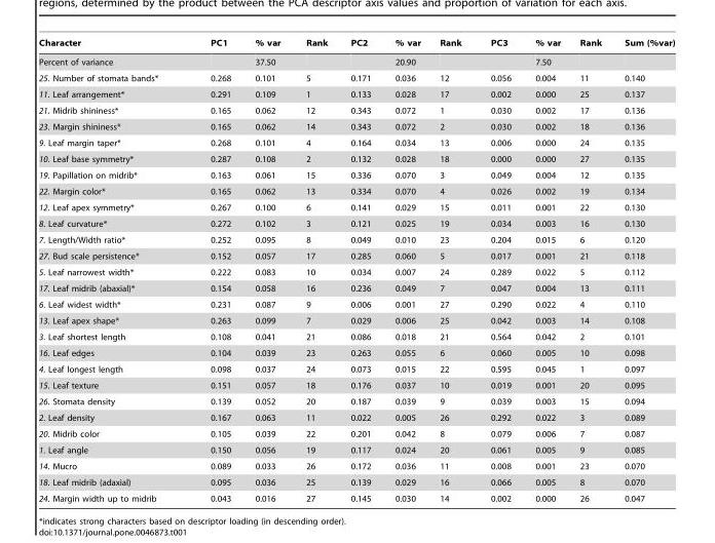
<table><thead><tr><td>Character</td><td>PC1</td><td>% var</td><td>Rank</td><td>PC2</td><td>% var</td><td>Rank</td><td>PC3</td><td>% var</td><td>Rank</td><td>Sum (%var)</td></tr></thead><tbody><tr><td>Percent of variance</td><td></td><td>37.50</td><td></td><td></td><td>20.90</td><td></td><td></td><td>7.50</td><td></td><td></td></tr><tr><td>25. Number of stomata bands*</td><td>0.268</td><td>0.101</td><td>5</td><td>0.171</td><td>0.036</td><td>12</td><td>0.056</td><td>0.004</td><td>11</td><td>0.140</td></tr><tr><td>11. Leaf arrangement*</td><td>0.291</td><td>0.109</td><td>1</td><td>0.133</td><td>0.028</td><td>17</td><td>0.002</td><td>0.000</td><td>25</td><td>0.137</td></tr><tr><td>21. Midrib shininess*</td><td>0.165</td><td>0.062</td><td>12</td><td>0.343</td><td>0.072</td><td>1</td><td>0.030</td><td>0.002</td><td>17</td><td>0.136</td></tr><tr><td>23. Margin shininess*</td><td>0.165</td><td>0.062</td><td>14</td><td>0.343</td><td>0.072</td><td>2</td><td>0.030</td><td>0.002</td><td>18</td><td>0.136</td></tr><tr><td>9. Leaf margin taper*</td><td>0.268</td><td>0.101</td><td>4</td><td>0.164</td><td>0.034</td><td>13</td><td>0.006</td><td>0.000</td><td>24</td><td>0.135</td></tr><tr><td>10. Leaf base symmetry*</td><td>0.287</td><td>0.108</td><td>2</td><td>0.132</td><td>0.028</td><td>18</td><td>0.000</td><td>0.000</td><td>27</td><td>0.135</td></tr><tr><td>19. Papillation on midrib*</td><td>0.163</td><td>0.061</td><td>15</td><td>0.336</td><td>0.070</td><td>3</td><td>0.049</td><td>0.004</td><td>12</td><td>0.135</td></tr><tr><td>22. Margin color*</td><td>0.165</td><td>0.062</td><td>13</td><td>0.334</td><td>0.070</td><td>4</td><td>0.026</td><td>0.002</td><td>19</td><td>0.134</td></tr><tr><td>12. Leaf apex symmetry*</td><td>0.267</td><td>0.100</td><td>6</td><td>0.141</td><td>0.029</td><td>15</td><td>0.011</td><td>0.001</td><td>22</td><td>0.130</td></tr><tr><td>8. Leaf curvature*</td><td>0.272</td><td>0.102</td><td>3</td><td>0.121</td><td>0.025</td><td>19</td><td>0.034</td><td>0.003</td><td>16</td><td>0.130</td></tr><tr><td>7. Length/Width ratio*</td><td>0.252</td><td>0.095</td><td>8</td><td>0.049</td><td>0.010</td><td>23</td><td>0.204</td><td>0.015</td><td>6</td><td>0.120</td></tr><tr><td>27. Bud scale persistence*</td><td>0.152</td><td>0.057</td><td>17</td><td>0.285</td><td>0.060</td><td>5</td><td>0.017</td><td>0.001</td><td>21</td><td>0.118</td></tr><tr><td>5. Leaf narrowest width*</td><td>0.222</td><td>0.083</td><td>10</td><td>0.034</td><td>0.007</td><td>24</td><td>0.289</td><td>0.022</td><td>5</td><td>0.112</td></tr><tr><td>17. Leaf midrib (abaxial)*</td><td>0.154</td><td>0.058</td><td>16</td><td>0.236</td><td>0.049</td><td>7</td><td>0.047</td><td>0.004</td><td>13</td><td>0.111</td></tr><tr><td>6. Leaf widest width*</td><td>0.231</td><td>0.087</td><td>9</td><td>0.006</td><td>0.001</td><td>27</td><td>0.290</td><td>0.022</td><td>4</td><td>0.110</td></tr><tr><td>13. Leaf apex shape*</td><td>0.263</td><td>0.099</td><td>7</td><td>0.029</td><td>0.006</td><td>25</td><td>0.042</td><td>0.003</td><td>14</td><td>0.108</td></tr><tr><td>3. Leaf shortest length</td><td>0.108</td><td>0.041</td><td>21</td><td>0.086</td><td>0.018</td><td>21</td><td>0.564</td><td>0.042</td><td>2</td><td>0.101</td></tr><tr><td>16. Leaf edges</td><td>0.104</td><td>0.039</td><td>23</td><td>0.263</td><td>0.055</td><td>6</td><td>0.060</td><td>0.005</td><td>10</td><td>0.098</td></tr><tr><td>4. Leaf longest length</td><td>0.098</td><td>0.037</td><td>24</td><td>0.073</td><td>0.015</td><td>22</td><td>0.595</td><td>0.045</td><td>1</td><td>0.097</td></tr><tr><td>15. Leaf texture</td><td>0.151</td><td>0.057</td><td>18</td><td>0.176</td><td>0.037</td><td>10</td><td>0.019</td><td>0.001</td><td>20</td><td>0.095</td></tr><tr><td>26. Stomata density</td><td>0.139</td><td>0.052</td><td>20</td><td>0.187</td><td>0.039</td><td>9</td><td>0.039</td><td>0.003</td><td>15</td><td>0.094</td></tr><tr><td>2. Leaf density</td><td>0.167</td><td>0.063</td><td>11</td><td>0.022</td><td>0.005</td><td>26</td><td>0.292</td><td>0.022</td><td>3</td><td>0.089</td></tr><tr><td>20. Midrib color</td><td>0.105</td><td>0.039</td><td>22</td><td>0.201</td><td>0.042</td><td>8</td><td>0.079</td><td>0.006</td><td>7</td><td>0.087</td></tr><tr><td>1. Leaf angle</td><td>0.150</td><td>0.056</td><td>19</td><td>0.117</td><td>0.024</td><td>20</td><td>0.061</td><td>0.005</td><td>9</td><td>0.085</td></tr><tr><td>14. Mucro</td><td>0.089</td><td>0.033</td><td>26</td><td>0.172</td><td>0.036</td><td>11</td><td>0.008</td><td>0.001</td><td>23</td><td>0.070</td></tr><tr><td>18. Leaf midrib (adaxial)</td><td>0.095</td><td>0.036</td><td>25</td><td>0.139</td><td>0.029</td><td>16</td><td>0.066</td><td>0.005</td><td>8</td><td>0.070</td></tr><tr><td>24. Margin width up to midrib</td><td>0.043</td><td>0.016</td><td>27</td><td>0.145</td><td>0.030</td><td>14</td><td>0.002</td><td>0.000</td><td>26</td><td>0.047</td></tr></tbody></table>